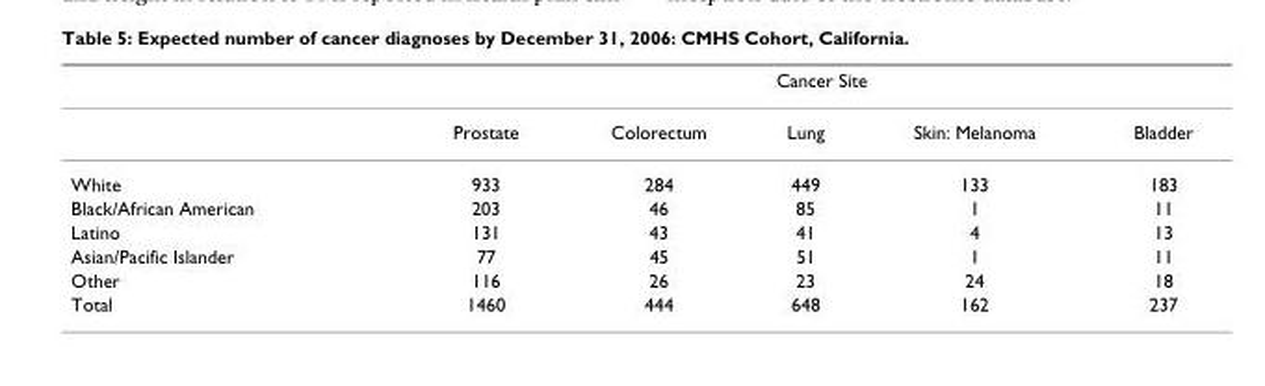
<table><thead><tr><td rowspan="2"></td><td colspan="5">Cancer Site</td></tr><tr><td>Prostate</td><td>Colorectum</td><td>Lung</td><td>Skin: Melanoma</td><td>Bladder</td></tr></thead><tbody><tr><td>White</td><td>933</td><td>284</td><td>449</td><td>133</td><td>183</td></tr><tr><td>Black/African American</td><td>203</td><td>46</td><td>85</td><td>1</td><td>11</td></tr><tr><td>Latino</td><td>131</td><td>43</td><td>41</td><td>4</td><td>13</td></tr><tr><td>Asian/Pacific Islander</td><td>77</td><td>45</td><td>51</td><td>1</td><td>11</td></tr><tr><td>Other</td><td>116</td><td>26</td><td>23</td><td>24</td><td>18</td></tr><tr><td>Total</td><td>1460</td><td>444</td><td>648</td><td>162</td><td>237</td></tr></tbody></table>